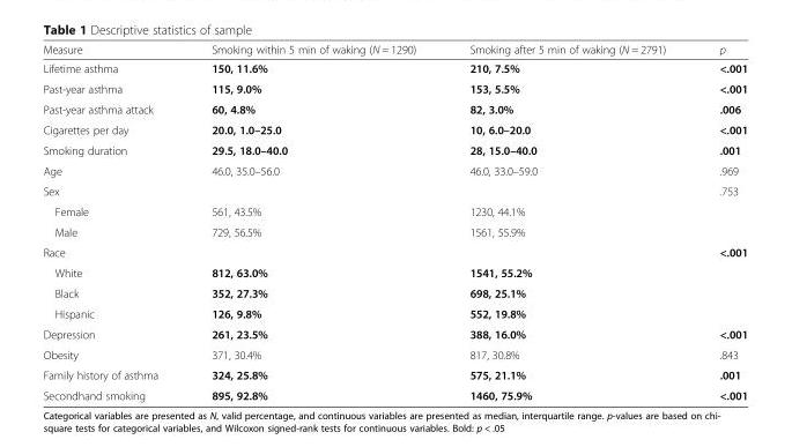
<table><thead><tr><td>Measure</td><td>Smoking within 5 min of waking (N = 1290)</td><td>Smoking after 5 min of waking (N = 2791)</td><td>p</td></tr></thead><tbody><tr><td>Lifetime asthma</td><td>150, 11.6%</td><td>210, 7.5%</td><td>&lt;.001</td></tr><tr><td>Past-year asthma</td><td>115, 9.0%</td><td>153, 5.5%</td><td>&lt;.001</td></tr><tr><td>Past-year asthma attack</td><td>60, 4.8%</td><td>82, 3.0%</td><td>.006</td></tr><tr><td>Cigarettes per day</td><td>20.0, 1.0–25.0</td><td>10, 6.0–20.0</td><td>&lt;.001</td></tr><tr><td>Smoking duration</td><td>29.5, 18.0–40.0</td><td>28, 15.0–40.0</td><td>.001</td></tr><tr><td>Age</td><td>46.0, 35.0–56.0</td><td>46.0, 33.0–59.0</td><td>.969</td></tr><tr><td>Sex</td><td></td><td></td><td>.753</td></tr><tr><td>Female</td><td>561, 43.5%</td><td>1230, 44.1%</td><td></td></tr><tr><td>Male</td><td>729, 56.5%</td><td>1561, 55.9%</td><td></td></tr><tr><td>Race</td><td></td><td></td><td>&lt;.001</td></tr><tr><td>White</td><td>812, 63.0%</td><td>1541, 55.2%</td><td></td></tr><tr><td>Black</td><td>352, 27.3%</td><td>698, 25.1%</td><td></td></tr><tr><td>Hispanic</td><td>126, 9.8%</td><td>552, 19.8%</td><td></td></tr><tr><td>Depression</td><td>261, 23.5%</td><td>388, 16.0%</td><td>&lt;.001</td></tr><tr><td>Obesity</td><td>371, 30.4%</td><td>817, 30.8%</td><td>.843</td></tr><tr><td>Family history of asthma</td><td>324, 25.8%</td><td>575, 21.1%</td><td>.001</td></tr><tr><td>Secondhand smoking</td><td>895, 92.8%</td><td>1460, 75.9%</td><td>&lt;.001</td></tr></tbody></table>